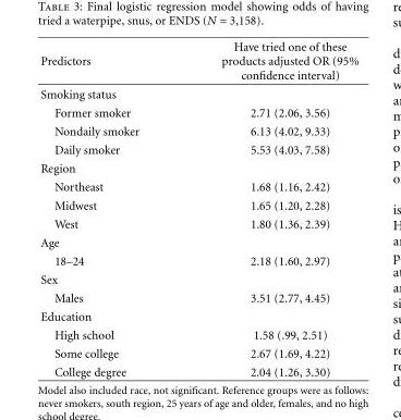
<table><thead><tr><td>Predictors</td><td>Have tried one of these products adjusted OR (95% confidence interval)</td></tr></thead><tbody><tr><td colspan="2">Smoking status</td></tr><tr><td>Former smoker</td><td>2.71 (2.06, 3.56)</td></tr><tr><td>Nondaily smoker</td><td>6.13 (4.02, 9.33)</td></tr><tr><td>Daily smoker</td><td>5.53 (4.03, 7.58)</td></tr><tr><td colspan="2">Region</td></tr><tr><td>Northeast</td><td>1.68 (1.16, 2.42)</td></tr><tr><td>Midwest</td><td>1.65 (1.20, 2.28)</td></tr><tr><td>West</td><td>1.80 (1.36, 2.39)</td></tr><tr><td colspan="2">Age</td></tr><tr><td>18–24</td><td>2.18 (1.60, 2.97)</td></tr><tr><td colspan="2">Sex</td></tr><tr><td>Males</td><td>3.51 (2.77, 4.45)</td></tr><tr><td colspan="2">Education</td></tr><tr><td>High school</td><td>1.58 (.99, 2.51)</td></tr><tr><td>Some college</td><td>2.67 (1.69, 4.22)</td></tr><tr><td>College degree</td><td>2.04 (1.26, 3.30)</td></tr></tbody></table>